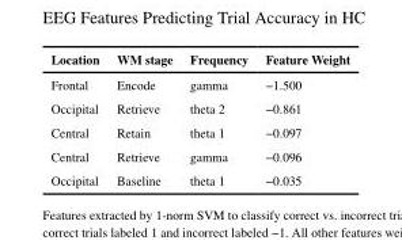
<table><thead><tr><td>Location</td><td>WM stage</td><td>Frequency</td><td>Feature Weight</td></tr></thead><tbody><tr><td>Frontal</td><td>Encode</td><td>gamma</td><td>−1.500</td></tr><tr><td>Occipital</td><td>Retrieve</td><td>theta 2</td><td>−0.861</td></tr><tr><td>Central</td><td>Retain</td><td>theta 1</td><td>−0.097</td></tr><tr><td>Central</td><td>Retrieve</td><td>gamma</td><td>−0.096</td></tr><tr><td>Occipital</td><td>Baseline</td><td>theta 1</td><td>−0.035</td></tr></tbody></table>